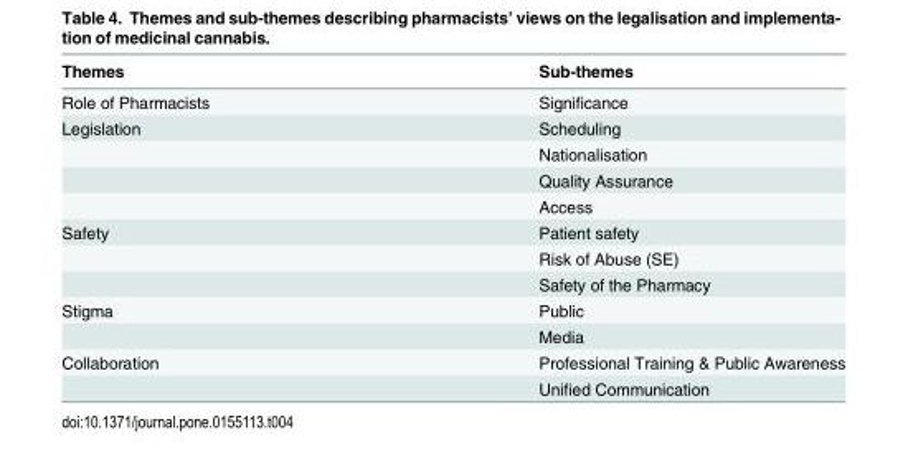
<table><thead><tr><td>Themes</td><td>Sub-themes</td></tr></thead><tbody><tr><td>Role of Pharmacists</td><td>Significance</td></tr><tr><td rowspan="4">Legislation</td><td>Scheduling</td></tr><tr><td>Nationalisation</td></tr><tr><td>Quality Assurance</td></tr><tr><td>Access</td></tr><tr><td rowspan="3">Safety</td><td>Patient safety</td></tr><tr><td>Risk of Abuse (SE)</td></tr><tr><td>Safety of the Pharmacy</td></tr><tr><td rowspan="2">Stigma</td><td>Public</td></tr><tr><td>Media</td></tr><tr><td rowspan="2">Collaboration</td><td>Professional Training &amp; Public Awareness</td></tr><tr><td>Unified Communication</td></tr></tbody></table>